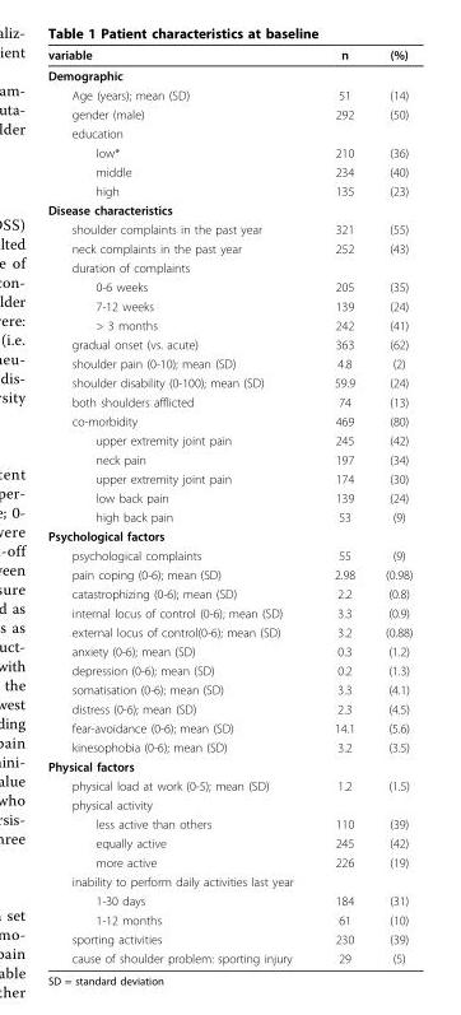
<table><thead><tr><td>variable</td><td>n</td><td>(%)</td></tr></thead><tbody><tr><td colspan="3">Demographic</td></tr><tr><td>Age (years); mean (SD)</td><td>51</td><td>(14)</td></tr><tr><td>gender (male)</td><td>292</td><td>(50)</td></tr><tr><td colspan="3">education</td></tr><tr><td>low*</td><td>210</td><td>(36)</td></tr><tr><td>middle</td><td>234</td><td>(40)</td></tr><tr><td>high</td><td>135</td><td>(23)</td></tr><tr><td colspan="3">Disease characteristics</td></tr><tr><td>shoulder complaints in the past year</td><td>321</td><td>(55)</td></tr><tr><td>neck complaints in the past year</td><td>252</td><td>(43)</td></tr><tr><td colspan="3">duration of complaints</td></tr><tr><td>0-6 weeks</td><td>205</td><td>(35)</td></tr><tr><td>7-12 weeks</td><td>139</td><td>(24)</td></tr><tr><td>&gt; 3 months</td><td>242</td><td>(41)</td></tr><tr><td>gradual onset (vs. acute)</td><td>363</td><td>(62)</td></tr><tr><td>shoulder pain (0-10); mean (SD)</td><td>4.8</td><td>(2)</td></tr><tr><td>shoulder disability (0-100); mean (SD)</td><td>59.9</td><td>(24)</td></tr><tr><td>both shoulders afflicted</td><td>74</td><td>(13)</td></tr><tr><td>co-morbidity</td><td>469</td><td>(80)</td></tr><tr><td>upper extremity joint pain</td><td>245</td><td>(42)</td></tr><tr><td>neck pain</td><td>197</td><td>(34)</td></tr><tr><td>upper extremity joint pain</td><td>174</td><td>(30)</td></tr><tr><td>low back pain</td><td>139</td><td>(24)</td></tr><tr><td>high back pain</td><td>53</td><td>(9)</td></tr><tr><td colspan="3">Psychological factors</td></tr><tr><td>psychological complaints</td><td>55</td><td>(9)</td></tr><tr><td>pain coping (0-6); mean (SD)</td><td>2.98</td><td>(0.98)</td></tr><tr><td>catastrophizing (0-6); mean (SD)</td><td>2.2</td><td>(0.8)</td></tr><tr><td>internal locus of control (0-6); mean (SD)</td><td>3.3</td><td>(0.9)</td></tr><tr><td>external locus of control(0-6); mean (SD)</td><td>3.2</td><td>(0.88)</td></tr><tr><td>anxiety (0-6); mean (SD)</td><td>0.3</td><td>(1.2)</td></tr><tr><td>depression (0-6); mean (SD)</td><td>0.2</td><td>(1.3)</td></tr><tr><td>somatisation (0-6); mean (SD)</td><td>3.3</td><td>(4.1)</td></tr><tr><td>distress (0-6); mean (SD)</td><td>2.3</td><td>(4.5)</td></tr><tr><td>fear-avoidance (0-6); mean (SD)</td><td>14.1</td><td>(5.6)</td></tr><tr><td>kinesophobia (0-6); mean (SD)</td><td>3.2</td><td>(3.5)</td></tr><tr><td colspan="3">Physical factors</td></tr><tr><td>physical load at work (0-5); mean (SD)</td><td>1.2</td><td>(1.5)</td></tr><tr><td colspan="3">physical activity</td></tr><tr><td>less active than others</td><td>110</td><td>(39)</td></tr><tr><td>equally active</td><td>245</td><td>(42)</td></tr><tr><td>more active</td><td>226</td><td>(19)</td></tr><tr><td colspan="3">inability to perform daily activities last year</td></tr><tr><td>1-30 days</td><td>184</td><td>(31)</td></tr><tr><td>1-12 months</td><td>61</td><td>(10)</td></tr><tr><td>sporting activities</td><td>230</td><td>(39)</td></tr><tr><td>cause of shoulder problem: sporting injury</td><td>29</td><td>(5)</td></tr></tbody></table>